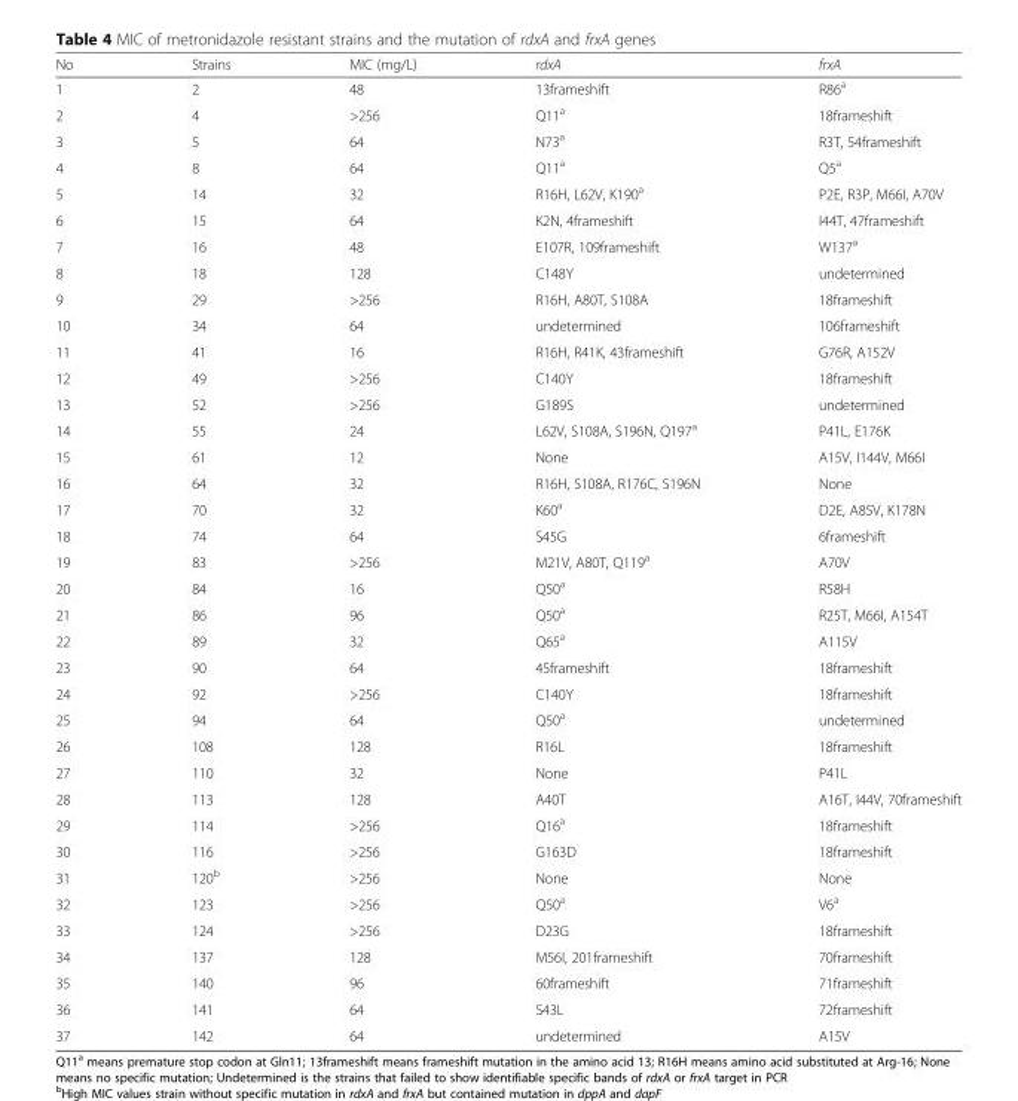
<table><thead><tr><td>No</td><td>Strains</td><td>MIC (mg/L)</td><td>rdxA</td><td>frxA</td></tr></thead><tbody><tr><td>1</td><td>2</td><td>48</td><td>13frameshift</td><td>R86<sup>a</sup></td></tr><tr><td>2</td><td>4</td><td>&gt;256</td><td>Q11<sup>a</sup></td><td>18frameshift</td></tr><tr><td>3</td><td>5</td><td>64</td><td>N73<sup>a</sup></td><td>R3T, 54frameshift</td></tr><tr><td>4</td><td>8</td><td>64</td><td>Q11<sup>a</sup></td><td>Q5<sup>a</sup></td></tr><tr><td>5</td><td>14</td><td>32</td><td>R16H, L62V, K190<sup>a</sup></td><td>P2E, R3P, M66I, A70V</td></tr><tr><td>6</td><td>15</td><td>64</td><td>K2N, 4frameshift</td><td>I44T, 47frameshift</td></tr><tr><td>7</td><td>16</td><td>48</td><td>E107R, 109frameshift</td><td>W137<sup>a</sup></td></tr><tr><td>8</td><td>18</td><td>128</td><td>C148Y</td><td>undetermined</td></tr><tr><td>9</td><td>29</td><td>&gt;256</td><td>R16H, A80T, S108A</td><td>18frameshift</td></tr><tr><td>10</td><td>34</td><td>64</td><td>undetermined</td><td>106frameshift</td></tr><tr><td>11</td><td>41</td><td>16</td><td>R16H, R41K, 43frameshift</td><td>G76R, A152V</td></tr><tr><td>12</td><td>49</td><td>&gt;256</td><td>C140Y</td><td>18frameshift</td></tr><tr><td>13</td><td>52</td><td>&gt;256</td><td>G189S</td><td>undetermined</td></tr><tr><td>14</td><td>55</td><td>24</td><td>L62V, S108A, S196N, Q197<sup>a</sup></td><td>P41L, E176K</td></tr><tr><td>15</td><td>61</td><td>12</td><td>None</td><td>A15V, I144V, M66I</td></tr><tr><td>16</td><td>64</td><td>32</td><td>R16H, S108A, R176C, S196N</td><td>None</td></tr><tr><td>17</td><td>70</td><td>32</td><td>K60<sup>a</sup></td><td>D2E, A85V, K178N</td></tr><tr><td>18</td><td>74</td><td>64</td><td>S45G</td><td>6frameshift</td></tr><tr><td>19</td><td>83</td><td>&gt;256</td><td>M21V, A80T, Q119<sup>a</sup></td><td>A70V</td></tr><tr><td>20</td><td>84</td><td>16</td><td>Q50<sup>a</sup></td><td>R58H</td></tr><tr><td>21</td><td>86</td><td>96</td><td>Q50<sup>a</sup></td><td>R25T, M66I, A154T</td></tr><tr><td>22</td><td>89</td><td>32</td><td>Q65<sup>a</sup></td><td>A115V</td></tr><tr><td>23</td><td>90</td><td>64</td><td>45frameshift</td><td>18frameshift</td></tr><tr><td>24</td><td>92</td><td>&gt;256</td><td>C140Y</td><td>18frameshift</td></tr><tr><td>25</td><td>94</td><td>64</td><td>Q50<sup>a</sup></td><td>undetermined</td></tr><tr><td>26</td><td>108</td><td>128</td><td>R16L</td><td>18frameshift</td></tr><tr><td>27</td><td>110</td><td>32</td><td>None</td><td>P41L</td></tr><tr><td>28</td><td>113</td><td>128</td><td>A40T</td><td>A16T, I44V, 70frameshift</td></tr><tr><td>29</td><td>114</td><td>&gt;256</td><td>Q16<sup>a</sup></td><td>18frameshift</td></tr><tr><td>30</td><td>116</td><td>&gt;256</td><td>G163D</td><td>18frameshift</td></tr><tr><td>31</td><td>120<sup>b</sup></td><td>&gt;256</td><td>None</td><td>None</td></tr><tr><td>32</td><td>123</td><td>&gt;256</td><td>Q50<sup>a</sup></td><td>V6<sup>a</sup></td></tr><tr><td>33</td><td>124</td><td>&gt;256</td><td>D23G</td><td>18frameshift</td></tr><tr><td>34</td><td>137</td><td>128</td><td>M56I, 201frameshift</td><td>70frameshift</td></tr><tr><td>35</td><td>140</td><td>96</td><td>60frameshift</td><td>71frameshift</td></tr><tr><td>36</td><td>141</td><td>64</td><td>S43L</td><td>72frameshift</td></tr><tr><td>37</td><td>142</td><td>64</td><td>undetermined</td><td>A15V</td></tr></tbody></table>